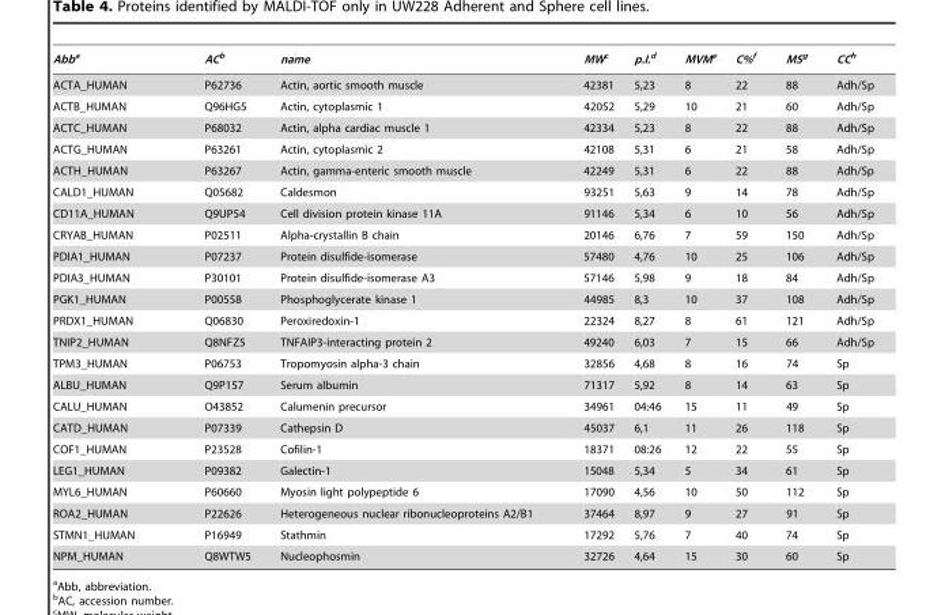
<table><thead><tr><td>Abba</td><td>ACb</td><td>name</td><td>MWc</td><td>p.I.d</td><td>MVMe</td><td>C%f</td><td>MSg</td><td>CCh</td></tr></thead><tbody><tr><td>ACTA_HUMAN</td><td>P62736</td><td>Actin, aortic smooth muscle</td><td>42381</td><td>5,23</td><td>8</td><td>22</td><td>88</td><td>Adh/Sp</td></tr><tr><td>ACTB_HUMAN</td><td>Q96HG5</td><td>Actin, cytoplasmic 1</td><td>42052</td><td>5,29</td><td>10</td><td>21</td><td>60</td><td>Adh/Sp</td></tr><tr><td>ACTC_HUMAN</td><td>P68032</td><td>Actin, alpha cardiac muscle 1</td><td>42334</td><td>5,23</td><td>8</td><td>22</td><td>88</td><td>Adh/Sp</td></tr><tr><td>ACTG_HUMAN</td><td>P63261</td><td>Actin, cytoplasmic 2</td><td>42108</td><td>5,31</td><td>6</td><td>21</td><td>58</td><td>Adh/Sp</td></tr><tr><td>ACTH_HUMAN</td><td>P63267</td><td>Actin, gamma-enteric smooth muscle</td><td>42249</td><td>5,31</td><td>6</td><td>22</td><td>88</td><td>Adh/Sp</td></tr><tr><td>CALD1_HUMAN</td><td>Q05682</td><td>Caldesmon</td><td>93251</td><td>5,63</td><td>9</td><td>14</td><td>78</td><td>Adh/Sp</td></tr><tr><td>CD11A_HUMAN</td><td>Q9UP54</td><td>Cell division protein kinase 11A</td><td>91146</td><td>5,34</td><td>6</td><td>10</td><td>56</td><td>Adh/Sp</td></tr><tr><td>CRYAB_HUMAN</td><td>P02511</td><td>Alpha-crystallin B chain</td><td>20146</td><td>6,76</td><td>7</td><td>59</td><td>150</td><td>Adh/Sp</td></tr><tr><td>PDIA1_HUMAN</td><td>P07237</td><td>Protein disulfide-isomerase</td><td>57480</td><td>4,76</td><td>10</td><td>25</td><td>106</td><td>Adh/Sp</td></tr><tr><td>PDIA3_HUMAN</td><td>P30101</td><td>Protein disulfide-isomerase A3</td><td>57146</td><td>5,98</td><td>9</td><td>18</td><td>84</td><td>Adh/Sp</td></tr><tr><td>PGK1_HUMAN</td><td>P00558</td><td>Phosphoglycerate kinase 1</td><td>44985</td><td>8,3</td><td>10</td><td>37</td><td>108</td><td>Adh/Sp</td></tr><tr><td>PRDX1_HUMAN</td><td>Q06830</td><td>Peroxiredoxin-1</td><td>22324</td><td>8,27</td><td>8</td><td>61</td><td>121</td><td>Adh/Sp</td></tr><tr><td>TNIP2_HUMAN</td><td>Q8NFZ5</td><td>TNFAIP3-interacting protein 2</td><td>49240</td><td>6,03</td><td>7</td><td>15</td><td>66</td><td>Adh/Sp</td></tr><tr><td>TPM3_HUMAN</td><td>P06753</td><td>Tropomyosin alpha-3 chain</td><td>32856</td><td>4,68</td><td>8</td><td>16</td><td>74</td><td>Sp</td></tr><tr><td>ALBU_HUMAN</td><td>Q9P157</td><td>Serum albumin</td><td>71317</td><td>5,92</td><td>8</td><td>14</td><td>63</td><td>Sp</td></tr><tr><td>CALU_HUMAN</td><td>O43852</td><td>Calumenin precursor</td><td>34961</td><td>04:46</td><td>15</td><td>11</td><td>49</td><td>Sp</td></tr><tr><td>CATD_HUMAN</td><td>P07339</td><td>Cathepsin D</td><td>45037</td><td>6,1</td><td>11</td><td>26</td><td>118</td><td>Sp</td></tr><tr><td>COF1_HUMAN</td><td>P23528</td><td>Cofilin-1</td><td>18371</td><td>08:26</td><td>12</td><td>22</td><td>55</td><td>Sp</td></tr><tr><td>LEG1_HUMAN</td><td>P09382</td><td>Galectin-1</td><td>15048</td><td>5,34</td><td>5</td><td>34</td><td>61</td><td>Sp</td></tr><tr><td>MYL6_HUMAN</td><td>P60660</td><td>Myosin light polypeptide 6</td><td>17090</td><td>4,56</td><td>10</td><td>50</td><td>112</td><td>Sp</td></tr><tr><td>ROA2_HUMAN</td><td>P22626</td><td>Heterogeneous nuclear ribonucleoproteins A2/B1</td><td>37464</td><td>8,97</td><td>9</td><td>27</td><td>91</td><td>Sp</td></tr><tr><td>STMN1_HUMAN</td><td>P16949</td><td>Stathmin</td><td>17292</td><td>5,76</td><td>7</td><td>40</td><td>74</td><td>Sp</td></tr><tr><td>NPM_HUMAN</td><td>Q8WTW5</td><td>Nucleophosmin</td><td>32726</td><td>4,64</td><td>15</td><td>30</td><td>60</td><td>Sp</td></tr></tbody></table>